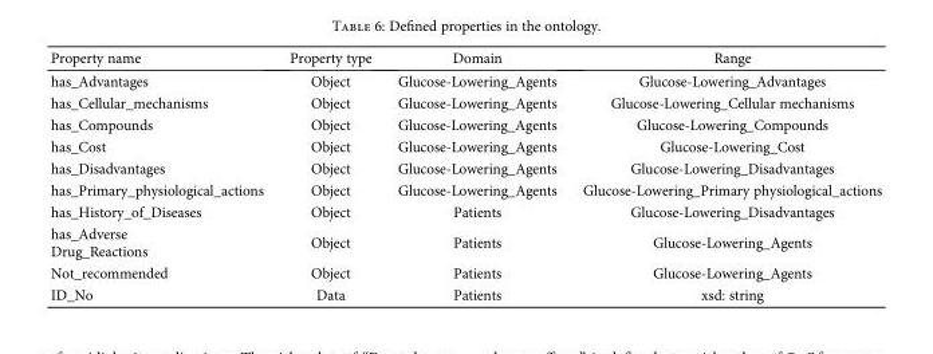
<table><thead><tr><td>Property name</td><td>Property type</td><td>Domain</td><td>Range</td></tr></thead><tbody><tr><td>has_Advantages</td><td>Object</td><td>Glucose-Lowering_Agents</td><td>Glucose-Lowering_Advantages</td></tr><tr><td>has_Cellular_mechanisms</td><td>Object</td><td>Glucose-Lowering_Agents</td><td>Glucose-Lowering_Cellular mechanisms</td></tr><tr><td>has_Compounds</td><td>Object</td><td>Glucose-Lowering_Agents</td><td>Glucose-Lowering_Compounds</td></tr><tr><td>has_Cost</td><td>Object</td><td>Glucose-Lowering_Agents</td><td>Glucose-Lowering_Cost</td></tr><tr><td>has_Disadvantages</td><td>Object</td><td>Glucose-Lowering_Agents</td><td>Glucose-Lowering_Disadvantages</td></tr><tr><td>has_Primary_physiological_actions</td><td>Object</td><td>Glucose-Lowering_Agents</td><td>Glucose-Lowering_Primary physiological_actions</td></tr><tr><td>has_History_of_Diseases</td><td>Object</td><td>Patients</td><td>Glucose-Lowering_Disadvantages</td></tr><tr><td>has_Adverse Drug_Reactions</td><td>Object</td><td>Patients</td><td>Glucose-Lowering_Agents</td></tr><tr><td>Not_recommended</td><td>Object</td><td>Patients</td><td>Glucose-Lowering_Agents</td></tr><tr><td>ID_No</td><td>Data</td><td>Patients</td><td>xsd: string</td></tr></tbody></table>